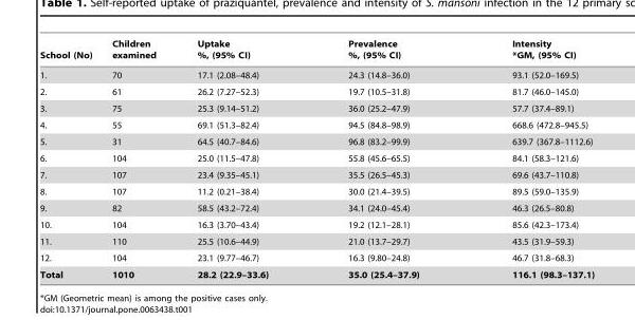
<table><thead><tr><td>School (No)</td><td>Children examined</td><td>Uptake %, (95% CI)</td><td>Prevalence %, (95% CI)</td><td>Intensity *GM, (95% CI)</td></tr></thead><tbody><tr><td>1.</td><td>70</td><td>17.1 (2.08–48.4)</td><td>24.3 (14.8–36.0)</td><td>93.1 (52.0–169.5)</td></tr><tr><td>2.</td><td>61</td><td>26.2 (7.27–52.3)</td><td>19.7 (10.5–31.8)</td><td>81.7 (46.0–145.0)</td></tr><tr><td>3.</td><td>75</td><td>25.3 (9.14–51.2)</td><td>36.0 (25.2–47.9)</td><td>57.7 (37.4–89.1)</td></tr><tr><td>4.</td><td>55</td><td>69.1 (51.3–82.4)</td><td>94.5 (84.8–98.9)</td><td>668.6 (472.8–945.5)</td></tr><tr><td>5.</td><td>31</td><td>64.5 (40.7–84.6)</td><td>96.8 (83.2–99.9)</td><td>639.7 (367.8–1112.6)</td></tr><tr><td>6.</td><td>104</td><td>25.0 (11.5–47.8)</td><td>55.8 (45.6–65.5)</td><td>84.1 (58.3–121.6)</td></tr><tr><td>7.</td><td>107</td><td>23.4 (9.35–45.1)</td><td>35.5 (26.5–45.3)</td><td>69.6 (43.7–110.8)</td></tr><tr><td>8.</td><td>107</td><td>11.2 (0.21–38.4)</td><td>30.0 (21.4–39.5)</td><td>89.5 (59.0–135.9)</td></tr><tr><td>9.</td><td>82</td><td>58.5 (43.2–72.4)</td><td>34.1 (24.0–45.4)</td><td>46.3 (26.5–80.8)</td></tr><tr><td>10.</td><td>104</td><td>16.3 (3.70–43.4)</td><td>19.2 (12.1–28.1)</td><td>85.6 (42.3–173.4)</td></tr><tr><td>11.</td><td>110</td><td>25.5 (10.6–44.9)</td><td>21.0 (13.7–29.7)</td><td>43.5 (31.9–59.3)</td></tr><tr><td>12.</td><td>104</td><td>23.1 (9.77–46.7)</td><td>16.3 (9.80–24.8)</td><td>46.7 (31.8–68.3)</td></tr><tr><td>Total</td><td>1010</td><td>28.2 (22.9–33.6)</td><td>35.0 (25.4–37.9)</td><td>116.1 (98.3–137.1)</td></tr></tbody></table>